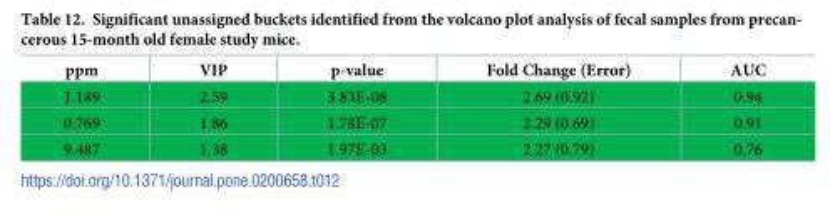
<table><thead><tr><td>ppm</td><td>VIP</td><td>p-value</td><td>Fold Change (Error)</td><td>AUC</td></tr></thead><tbody><tr><td>1.189</td><td>2.59</td><td>3.83E-08</td><td>2.69 (0.92)</td><td>0.94</td></tr><tr><td>0.769</td><td>1.86</td><td>1.78E-07</td><td>2.29 (0.69)</td><td>0.91</td></tr><tr><td>9.487</td><td>1.38</td><td>1.97E-03</td><td>2.27 (0.79)</td><td>0.76</td></tr></tbody></table>